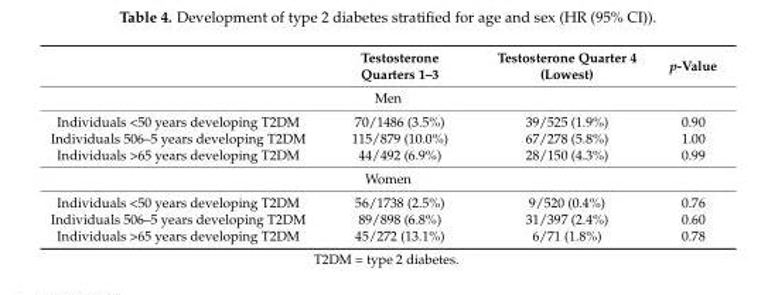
<table><thead><tr><td></td><td>Testosterone Quarters 1–3</td><td>Testosterone Quarter 4 (Lowest)</td><td>p-Value</td></tr></thead><tbody><tr><td colspan="4">Men</td></tr><tr><td>Individuals &lt;50 years developing T2DM</td><td>70/1486 (3.5%)</td><td>39/525 (1.9%)</td><td>0.90</td></tr><tr><td>Individuals 506–5 years developing T2DM</td><td>115/879 (10.0%)</td><td>67/278 (5.8%)</td><td>1.00</td></tr><tr><td>Individuals &gt;65 years developing T2DM</td><td>44/492 (6.9%)</td><td>28/150 (4.3%)</td><td>0.99</td></tr><tr><td colspan="4">Women</td></tr><tr><td>Individuals &lt;50 years developing T2DM</td><td>56/1738 (2.5%)</td><td>9/520 (0.4%)</td><td>0.76</td></tr><tr><td>Individuals 506–5 years developing T2DM</td><td>89/898 (6.8%)</td><td>31/397 (2.4%)</td><td>0.60</td></tr><tr><td>Individuals &gt;65 years developing T2DM</td><td>45/272 (13.1%)</td><td>6/71 (1.8%)</td><td>0.78</td></tr></tbody></table>